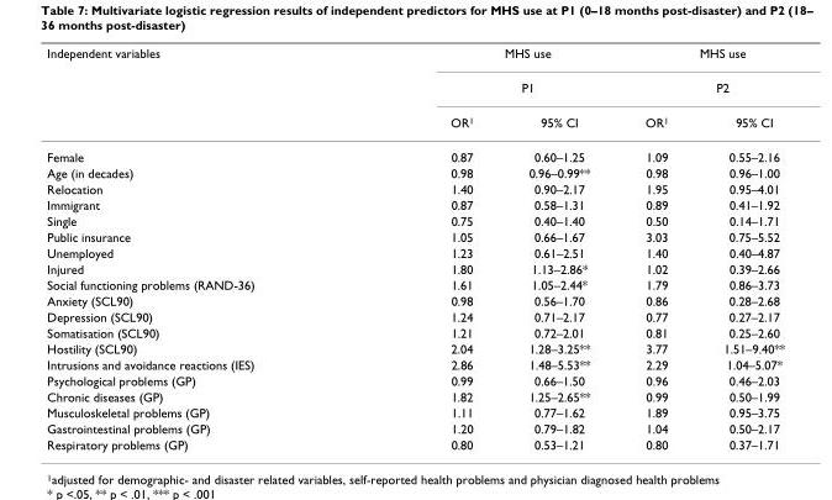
<table><thead><tr><td rowspan="3">Independent variables</td><td rowspan="2" colspan="2">MHS use P1</td><td rowspan="2" colspan="2">MHS use P2</td></tr><tr></tr><tr><td>OR<sup>1</sup></td><td>95% CI</td><td>OR<sup>1</sup></td><td>95% CI</td></tr></thead><tbody><tr><td>Female</td><td>0.87</td><td>0.60–1.25</td><td>1.09</td><td>0.55–2.16</td></tr><tr><td>Age (in decades)</td><td>0.98</td><td>0.96–0.99**</td><td>0.98</td><td>0.96–1.00</td></tr><tr><td>Relocation</td><td>1.40</td><td>0.90–2.17</td><td>1.95</td><td>0.95–4.01</td></tr><tr><td>Immigrant</td><td>0.87</td><td>0.58–1.31</td><td>0.89</td><td>0.41–1.92</td></tr><tr><td>Single</td><td>0.75</td><td>0.40–1.40</td><td>0.50</td><td>0.14–1.71</td></tr><tr><td>Public insurance</td><td>1.05</td><td>0.66–1.67</td><td>3.03</td><td>0.75–5.52</td></tr><tr><td>Unemployed</td><td>1.23</td><td>0.61–2.51</td><td>1.40</td><td>0.40–4.87</td></tr><tr><td>Injured</td><td>1.80</td><td>1.13–2.86*</td><td>1.02</td><td>0.39–2.66</td></tr><tr><td>Social functioning problems (RAND-36)</td><td>1.61</td><td>1.05–2.44*</td><td>1.79</td><td>0.86–3.73</td></tr><tr><td>Anxiety (SCL90)</td><td>0.98</td><td>0.56–1.70</td><td>0.86</td><td>0.28–2.68</td></tr><tr><td>Depression (SCL90)</td><td>1.24</td><td>0.71–2.17</td><td>0.77</td><td>0.27–2.17</td></tr><tr><td>Somatisation (SCL90)</td><td>1.21</td><td>0.72–2.01</td><td>0.81</td><td>0.25–2.60</td></tr><tr><td>Hostility (SCL90)</td><td>2.04</td><td>1.28–3.25**</td><td>3.77</td><td>1.51–9.40**</td></tr><tr><td>Intrusions and avoidance reactions (IES)</td><td>2.86</td><td>1.48–5.53**</td><td>2.29</td><td>1.04–5.07*</td></tr><tr><td>Psychological problems (GP)</td><td>0.99</td><td>0.66–1.50</td><td>0.96</td><td>0.46–2.03</td></tr><tr><td>Chronic diseases (GP)</td><td>1.82</td><td>1.25–2.65**</td><td>0.99</td><td>0.50–1.99</td></tr><tr><td>Musculoskeletal problems (GP)</td><td>1.11</td><td>0.77–1.62</td><td>1.89</td><td>0.95–3.75</td></tr><tr><td>Gastrointestinal problems (GP)</td><td>1.20</td><td>0.79–1.82</td><td>1.04</td><td>0.50–2.17</td></tr><tr><td>Respiratory problems (GP)</td><td>0.80</td><td>0.53–1.21</td><td>0.80</td><td>0.37–1.71</td></tr></tbody></table>